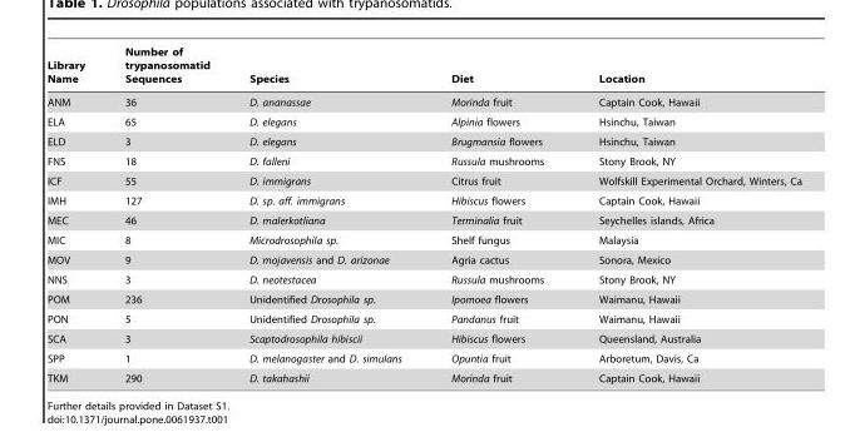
<table><thead><tr><td>Library Name</td><td>Number of trypanosomatid Sequences</td><td>Species</td><td>Diet</td><td>Location</td></tr></thead><tbody><tr><td>ANM</td><td>36</td><td>D. ananassae</td><td>Morinda fruit</td><td>Captain Cook, Hawaii</td></tr><tr><td>ELA</td><td>65</td><td>D. elegans</td><td>Alpinia flowers</td><td>Hsinchu, Taiwan</td></tr><tr><td>ELD</td><td>3</td><td>D. elegans</td><td>Brugmansia flowers</td><td>Hsinchu, Taiwan</td></tr><tr><td>FNS</td><td>18</td><td>D. falleni</td><td>Russula mushrooms</td><td>Stony Brook, NY</td></tr><tr><td>ICF</td><td>55</td><td>D. immigrans</td><td>Citrus fruit</td><td>Wolfskill Experimental Orchard, Winters, Ca</td></tr><tr><td>IMH</td><td>127</td><td>D. sp. aff. immigrans</td><td>Hibiscus flowers</td><td>Captain Cook, Hawaii</td></tr><tr><td>MEC</td><td>46</td><td>D. malerkotliana</td><td>Terminalia fruit</td><td>Seychelles islands, Africa</td></tr><tr><td>MIC</td><td>8</td><td>Microdrosophila sp.</td><td>Shelf fungus</td><td>Malaysia</td></tr><tr><td>MOV</td><td>9</td><td>D. mojavensis and D. arizonae</td><td>Agria cactus</td><td>Sonora, Mexico</td></tr><tr><td>NNS</td><td>3</td><td>D. neotestacea</td><td>Russula mushrooms</td><td>Stony Brook, NY</td></tr><tr><td>POM</td><td>236</td><td>Unidentified Drosophila sp.</td><td>Ipomoea flowers</td><td>Waimanu, Hawaii</td></tr><tr><td>PON</td><td>5</td><td>Unidentified Drosophila sp.</td><td>Pandanus fruit</td><td>Waimanu, Hawaii</td></tr><tr><td>SCA</td><td>3</td><td>Scaptodrosophila hibiscii</td><td>Hibiscus flowers</td><td>Queensland, Australia</td></tr><tr><td>SPP</td><td>1</td><td>D. melanogaster and D. simulans</td><td>Opuntia fruit</td><td>Arboretum, Davis, Ca</td></tr><tr><td>TKM</td><td>290</td><td>D. takahashii</td><td>Morinda fruit</td><td>Captain Cook, Hawaii</td></tr></tbody></table>